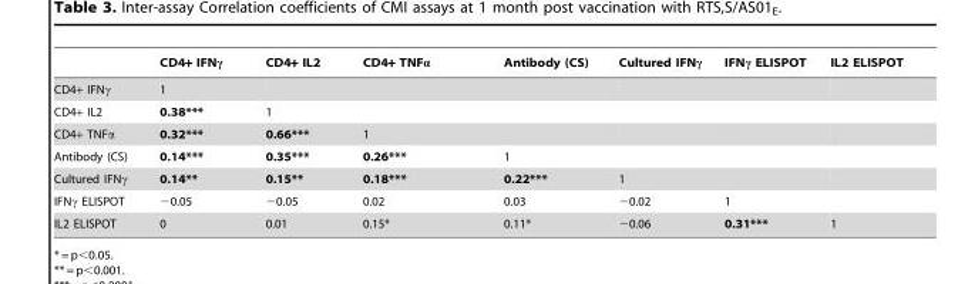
<table><thead><tr><td></td><td>CD4+ IFNγ</td><td>CD4+ IL2</td><td>CD4+ TNFα</td><td>Antibody (CS)</td><td>Cultured IFNγ</td><td>IFNγ ELISPOT</td><td>IL2 ELISPOT</td></tr></thead><tbody><tr><td>CD4+ IFNγ</td><td>1</td><td></td><td></td><td></td><td></td><td></td><td></td></tr><tr><td>CD4+ IL2</td><td>0.38***</td><td>1</td><td></td><td></td><td></td><td></td><td></td></tr><tr><td>CD4+ TNFα</td><td>0.32***</td><td>0.66***</td><td>1</td><td></td><td></td><td></td><td></td></tr><tr><td>Antibody (CS)</td><td>0.14***</td><td>0.35***</td><td>0.26***</td><td>1</td><td></td><td></td><td></td></tr><tr><td>Cultured IFNγ</td><td>0.14**</td><td>0.15**</td><td>0.18***</td><td>0.22***</td><td>1</td><td></td><td></td></tr><tr><td>IFNγ ELISPOT</td><td>−0.05</td><td>−0.05</td><td>0.02</td><td>0.03</td><td>−0.02</td><td>1</td><td></td></tr><tr><td>IL2 ELISPOT</td><td>0</td><td>0.01</td><td>0.15*</td><td>0.11*</td><td>−0.06</td><td>0.31***</td><td>1</td></tr></tbody></table>